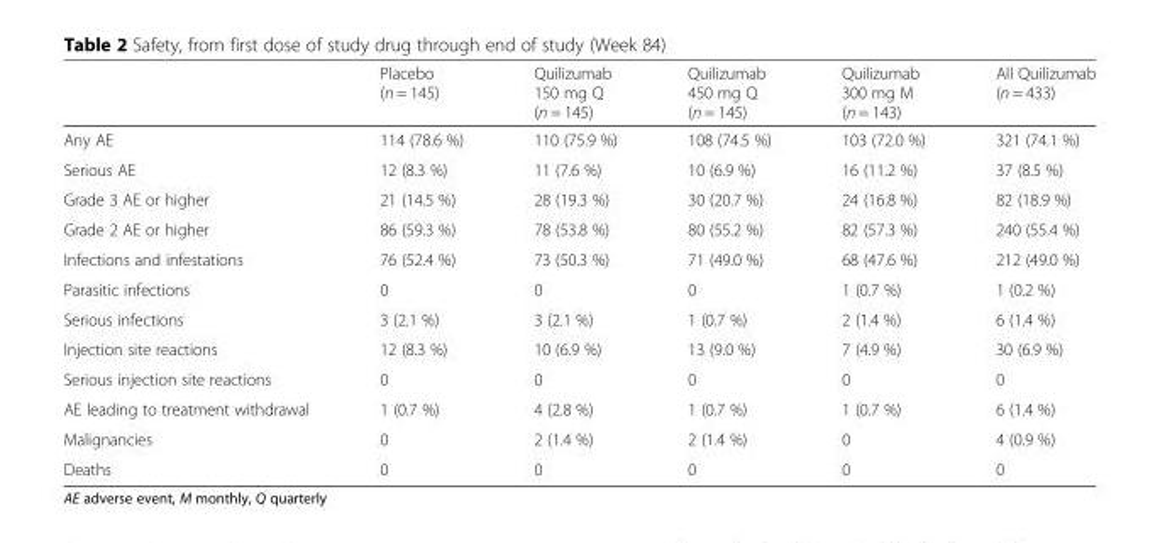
<table><thead><tr><td></td><td>Placebo (n = 145)</td><td>Quilizumab 150 mg Q (n = 145)</td><td>Quilizumab 450 mg Q (n = 145)</td><td>Quilizumab 300 mg M (n = 143)</td><td>All Quilizumab (n = 433)</td></tr></thead><tbody><tr><td>Any AE</td><td>114 (78.6 %)</td><td>110 (75.9 %)</td><td>108 (74.5 %)</td><td>103 (72.0 %)</td><td>321 (74.1 %)</td></tr><tr><td>Serious AE</td><td>12 (8.3 %)</td><td>11 (7.6 %)</td><td>10 (6.9 %)</td><td>16 (11.2 %)</td><td>37 (8.5 %)</td></tr><tr><td>Grade 3 AE or higher</td><td>21 (14.5 %)</td><td>28 (19.3 %)</td><td>30 (20.7 %)</td><td>24 (16.8 %)</td><td>82 (18.9 %)</td></tr><tr><td>Grade 2 AE or higher</td><td>86 (59.3 %)</td><td>78 (53.8 %)</td><td>80 (55.2 %)</td><td>82 (57.3 %)</td><td>240 (55.4 %)</td></tr><tr><td>Infections and infestations</td><td>76 (52.4 %)</td><td>73 (50.3 %)</td><td>71 (49.0 %)</td><td>68 (47.6 %)</td><td>212 (49.0 %)</td></tr><tr><td>Parasitic infections</td><td>0</td><td>0</td><td>0</td><td>1 (0.7 %)</td><td>1 (0.2 %)</td></tr><tr><td>Serious infections</td><td>3 (2.1 %)</td><td>3 (2.1 %)</td><td>1 (0.7 %)</td><td>2 (1.4 %)</td><td>6 (1.4 %)</td></tr><tr><td>Injection site reactions</td><td>12 (8.3 %)</td><td>10 (6.9 %)</td><td>13 (9.0 %)</td><td>7 (4.9 %)</td><td>30 (6.9 %)</td></tr><tr><td>Serious injection site reactions</td><td>0</td><td>0</td><td>0</td><td>0</td><td>0</td></tr><tr><td>AE leading to treatment withdrawal</td><td>1 (0.7 %)</td><td>4 (2.8 %)</td><td>1 (0.7 %)</td><td>1 (0.7 %)</td><td>6 (1.4 %)</td></tr><tr><td>Malignancies</td><td>0</td><td>2 (1.4 %)</td><td>2 (1.4 %)</td><td>0</td><td>4 (0.9 %)</td></tr><tr><td>Deaths</td><td>0</td><td>0</td><td>0</td><td>0</td><td>0</td></tr></tbody></table>